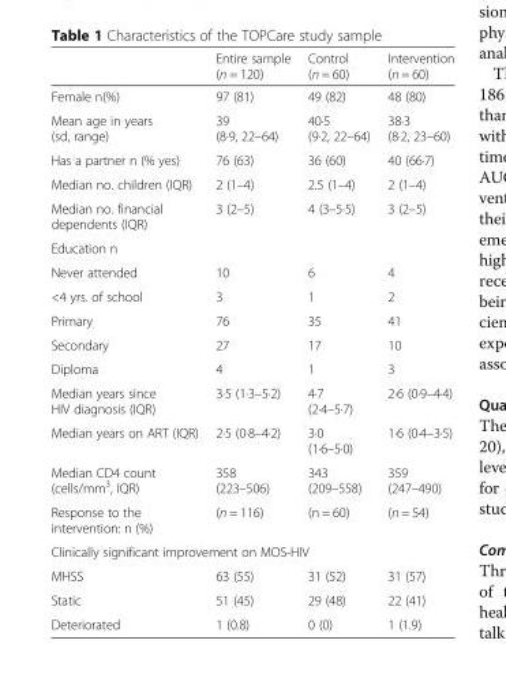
<table><thead><tr><td></td><td>Entire sample (n = 120)</td><td>Control (n = 60)</td><td>Intervention (n = 60)</td></tr></thead><tbody><tr><td>Female n(%)</td><td>97 (81)</td><td>49 (82)</td><td>48 (80)</td></tr><tr><td>Mean age in years (sd, range)</td><td>39 (8·9, 22–64)</td><td>40·5 (9·2, 22–64)</td><td>38·3 (8·2, 23–60)</td></tr><tr><td>Has a partner n (% yes)</td><td>76 (63)</td><td>36 (60)</td><td>40 (66·7)</td></tr><tr><td>Median no. children (IQR)</td><td>2 (1–4)</td><td>2.5 (1–4)</td><td>2 (1–4)</td></tr><tr><td>Median no. financial dependents (IQR)</td><td>3 (2–5)</td><td>4 (3–5·5)</td><td>3 (2–5)</td></tr><tr><td colspan="4">Education n</td></tr><tr><td>Never attended</td><td>10</td><td>6</td><td>4</td></tr><tr><td>&lt;4 yrs. of school</td><td>3</td><td>1</td><td>2</td></tr><tr><td>Primary</td><td>76</td><td>35</td><td>41</td></tr><tr><td>Secondary</td><td>27</td><td>17</td><td>10</td></tr><tr><td>Diploma</td><td>4</td><td>1</td><td>3</td></tr><tr><td>Median years since HIV diagnosis (IQR)</td><td>3·5 (1·3–5·2)</td><td>4·7 (2·4–5·7)</td><td>2·6 (0·9–4·4)</td></tr><tr><td>Median years on ART (IQR)</td><td>2·5 (0·8–4·2)</td><td>3·0 (1·6–5·0)</td><td>1·6 (0·4–3·5)</td></tr><tr><td>Median CD4 count (cells/mm<sup>3</sup>, IQR)</td><td>358 (223–506)</td><td>343 (209–558)</td><td>359 (247–490)</td></tr><tr><td>Response to the intervention: n (%)</td><td>(n = 116)</td><td>(n = 60)</td><td>(n = 54)</td></tr><tr><td colspan="4">Clinically significant improvement on MOS-HIV</td></tr><tr><td>MHSS</td><td>63 (55)</td><td>31 (52)</td><td>31 (57)</td></tr><tr><td>Static</td><td>51 (45)</td><td>29 (48)</td><td>22 (41)</td></tr><tr><td>Deteriorated</td><td>1 (0.8)</td><td>0 (0)</td><td>1 (1.9)</td></tr></tbody></table>